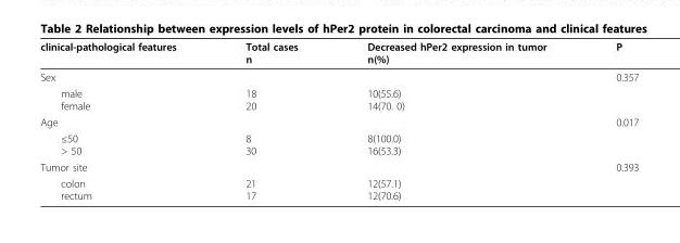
<table><thead><tr><td>clinical-pathological features</td><td>Total cases n</td><td>Decreased hPer2 expression in tumor n(%)</td><td>P</td></tr></thead><tbody><tr><td>Sex</td><td></td><td></td><td>0.357</td></tr><tr><td>male female</td><td>18 20</td><td>10(55.6) 14(70. 0)</td><td></td></tr><tr><td>Age</td><td></td><td></td><td>0.017</td></tr><tr><td>≤50 &gt; 50</td><td>8 30</td><td>8(100.0) 16(53.3)</td><td></td></tr><tr><td>Tumor site</td><td></td><td></td><td>0.393</td></tr><tr><td>colon rectum</td><td>21 17</td><td>12(57.1) 12(70.6)</td><td></td></tr></tbody></table>